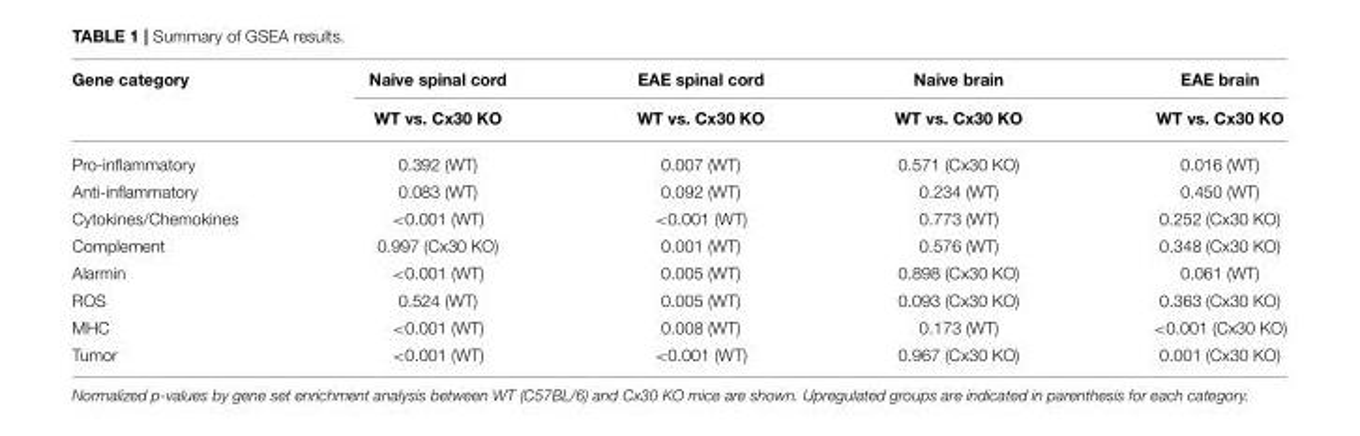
<table><thead><tr><td rowspan="2">Gene category</td><td rowspan="2">Naive spinal cord WT vs. Cx30 KO</td><td rowspan="2">EAE spinal cord WT vs. Cx30 KO</td><td rowspan="2">Naive brain WT vs. Cx30 KO</td><td rowspan="2">EAE brain WT vs. Cx30 KO</td></tr><tr></tr></thead><tbody><tr><td>Pro-inflammatory</td><td>0.392 (WT)</td><td>0.007 (WT)</td><td>0.571 (Cx30 KO)</td><td>0.016 (WT)</td></tr><tr><td>Anti-inflammatory</td><td>0.083 (WT)</td><td>0.092 (WT)</td><td>0.234 (WT)</td><td>0.450 (WT)</td></tr><tr><td>Cytokines/Chemokines</td><td>&lt;0.001 (WT)</td><td>&lt;0.001 (WT)</td><td>0.773 (WT)</td><td>0.252 (Cx30 KO)</td></tr><tr><td>Complement</td><td>0.997 (Cx30 KO)</td><td>0.001 (WT)</td><td>0.576 (WT)</td><td>0.348 (Cx30 KO)</td></tr><tr><td>Alarmin</td><td>&lt;0.001 (WT)</td><td>0.005 (WT)</td><td>0.898 (Cx30 KO)</td><td>0.061 (WT)</td></tr><tr><td>ROS</td><td>0.524 (WT)</td><td>0.005 (WT)</td><td>0.093 (Cx30 KO)</td><td>0.363 (Cx30 KO)</td></tr><tr><td>MHC</td><td>&lt;0.001 (WT)</td><td>0.008 (WT)</td><td>0.173 (WT)</td><td>&lt;0.001 (Cx30 KO)</td></tr><tr><td>Tumor</td><td>&lt;0.001 (WT)</td><td>&lt;0.001 (WT)</td><td>0.967 (Cx30 KO)</td><td>0.001 (Cx30 KO)</td></tr></tbody></table>